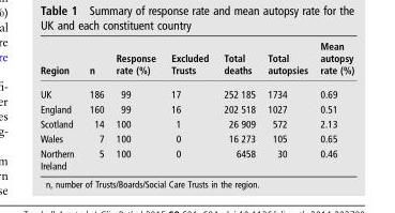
<table><thead><tr><td>Region</td><td>n</td><td>Response rate (%)</td><td>Excluded Trusts</td><td>Total deaths</td><td>Total autopsies</td><td>Mean autopsy rate (%)</td></tr></thead><tbody><tr><td>UK</td><td>186</td><td>99</td><td>17</td><td>252 185</td><td>1734</td><td>0.69</td></tr><tr><td>England</td><td>160</td><td>99</td><td>16</td><td>202 518</td><td>1027</td><td>0.51</td></tr><tr><td>Scotland</td><td>14</td><td>100</td><td>1</td><td>26 909</td><td>572</td><td>2.13</td></tr><tr><td>Wales</td><td>7</td><td>100</td><td>0</td><td>16 273</td><td>105</td><td>0.65</td></tr><tr><td>Northern Ireland</td><td>5</td><td>100</td><td>0</td><td>6458</td><td>30</td><td>0.46</td></tr></tbody></table>